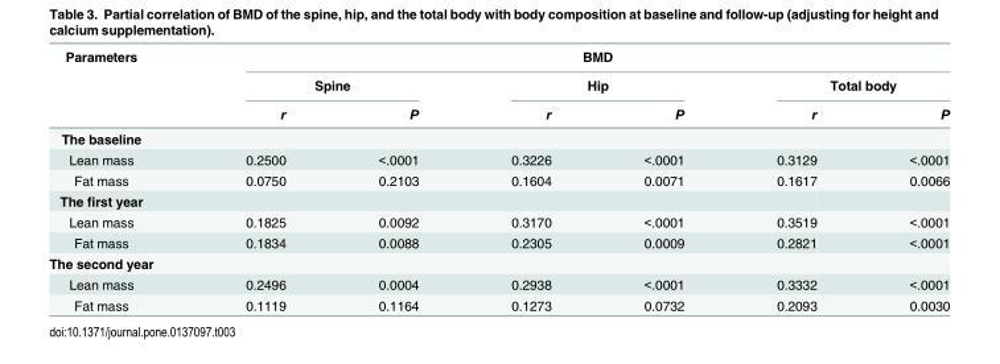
<table><thead><tr><td rowspan="3">Parameters</td><td colspan="6">BMD</td></tr><tr><td colspan="2">Spine</td><td colspan="2">Hip</td><td colspan="2">Total body</td></tr><tr><td>r</td><td>P</td><td>r</td><td>P</td><td>r</td><td>P</td></tr></thead><tbody><tr><td colspan="7">The baseline</td></tr><tr><td>Lean mass</td><td>0.2500</td><td>&lt;.0001</td><td>0.3226</td><td>&lt;.0001</td><td>0.3129</td><td>&lt;.0001</td></tr><tr><td>Fat mass</td><td>0.0750</td><td>0.2103</td><td>0.1604</td><td>0.0071</td><td>0.1617</td><td>0.0066</td></tr><tr><td colspan="7">The first year</td></tr><tr><td>Lean mass</td><td>0.1825</td><td>0.0092</td><td>0.3170</td><td>&lt;.0001</td><td>0.3519</td><td>&lt;.0001</td></tr><tr><td>Fat mass</td><td>0.1834</td><td>0.0088</td><td>0.2305</td><td>0.0009</td><td>0.2821</td><td>&lt;.0001</td></tr><tr><td colspan="7">The second year</td></tr><tr><td>Lean mass</td><td>0.2496</td><td>0.0004</td><td>0.2938</td><td>&lt;.0001</td><td>0.3332</td><td>&lt;.0001</td></tr><tr><td>Fat mass</td><td>0.1119</td><td>0.1164</td><td>0.1273</td><td>0.0732</td><td>0.2093</td><td>0.0030</td></tr></tbody></table>